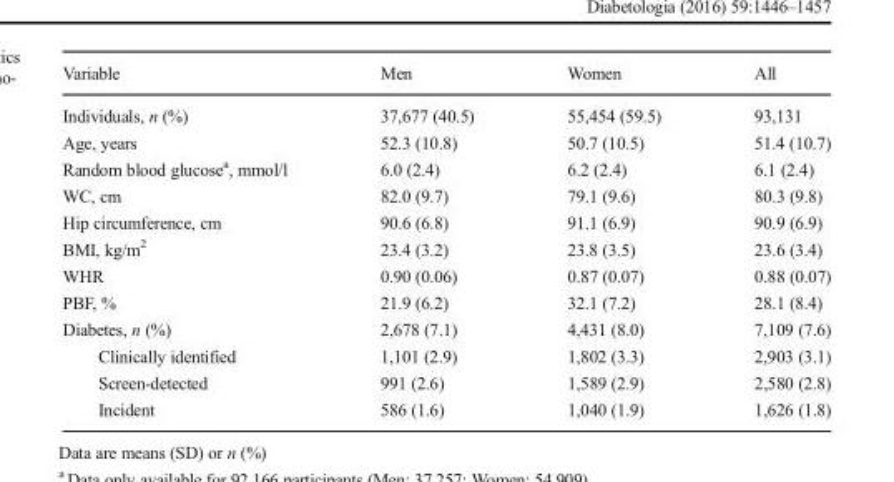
<table><thead><tr><td>Variable</td><td>Men</td><td>Women</td><td>All</td></tr></thead><tbody><tr><td>Individuals, n (%)</td><td>37,677 (40.5)</td><td>55,454 (59.5)</td><td>93,131</td></tr><tr><td>Age, years</td><td>52.3 (10.8)</td><td>50.7 (10.5)</td><td>51.4 (10.7)</td></tr><tr><td>Random blood glucose<sup>a</sup>, mmol/l</td><td>6.0 (2.4)</td><td>6.2 (2.4)</td><td>6.1 (2.4)</td></tr><tr><td>WC, cm</td><td>82.0 (9.7)</td><td>79.1 (9.6)</td><td>80.3 (9.8)</td></tr><tr><td>Hip circumference, cm</td><td>90.6 (6.8)</td><td>91.1 (6.9)</td><td>90.9 (6.9)</td></tr><tr><td>BMI, kg/m<sup>2</sup></td><td>23.4 (3.2)</td><td>23.8 (3.5)</td><td>23.6 (3.4)</td></tr><tr><td>WHR</td><td>0.90 (0.06)</td><td>0.87 (0.07)</td><td>0.88 (0.07)</td></tr><tr><td>PBF, %</td><td>21.9 (6.2)</td><td>32.1 (7.2)</td><td>28.1 (8.4)</td></tr><tr><td>Diabetes, n (%)</td><td>2,678 (7.1)</td><td>4,431 (8.0)</td><td>7,109 (7.6)</td></tr><tr><td>Clinically identified</td><td>1,101 (2.9)</td><td>1,802 (3.3)</td><td>2,903 (3.1)</td></tr><tr><td>Screen-detected</td><td>991 (2.6)</td><td>1,589 (2.9)</td><td>2,580 (2.8)</td></tr><tr><td>Incident</td><td>586 (1.6)</td><td>1,040 (1.9)</td><td>1,626 (1.8)</td></tr></tbody></table>